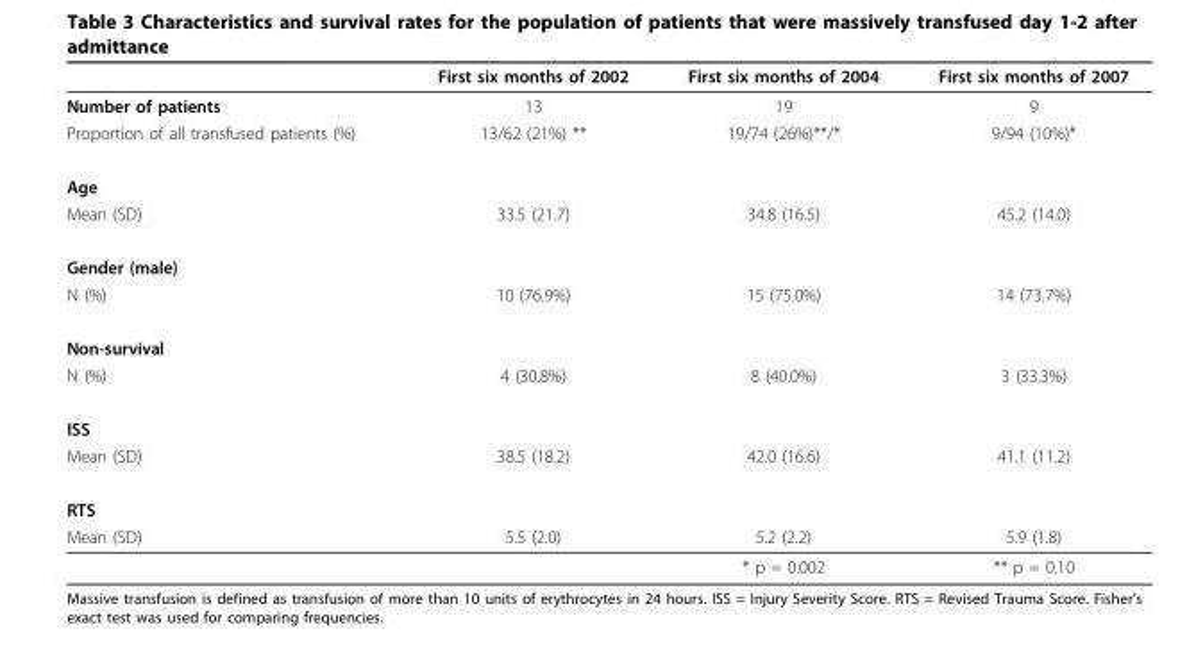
<table><thead><tr><td></td><td>First six months of 2002</td><td>First six months of 2004</td><td>First six months of 2007</td></tr></thead><tbody><tr><td>Number of patients</td><td>13</td><td>19</td><td>9</td></tr><tr><td>Proportion of all transfused patients (%)</td><td>13/62 (21%) **</td><td>19/74 (26%)**/*</td><td>9/94 (10%)*</td></tr><tr><td colspan="4">Age</td></tr><tr><td>Mean (SD)</td><td>33.5 (21.7)</td><td>34.8 (16.5)</td><td>45.2 (14.0)</td></tr><tr><td colspan="4">Gender (male)</td></tr><tr><td>N (%)</td><td>10 (76.9%)</td><td>15 (75.0%)</td><td>14 (73.7%)</td></tr><tr><td colspan="4">Non-survival</td></tr><tr><td>N (%)</td><td>4 (30.8%)</td><td>8 (40.0%)</td><td>3 (33.3%)</td></tr><tr><td colspan="4">ISS</td></tr><tr><td>Mean (SD)</td><td>38.5 (18.2)</td><td>42.0 (16.6)</td><td>41.1 (11.2)</td></tr><tr><td colspan="4">RTS</td></tr><tr><td rowspan="2">Mean (SD)</td><td>5.5 (2.0)</td><td>5.2 (2.2)</td><td>5.9 (1.8)</td></tr><tr><td></td><td>* p = 0.002</td><td>** p = 0.10</td></tr></tbody></table>